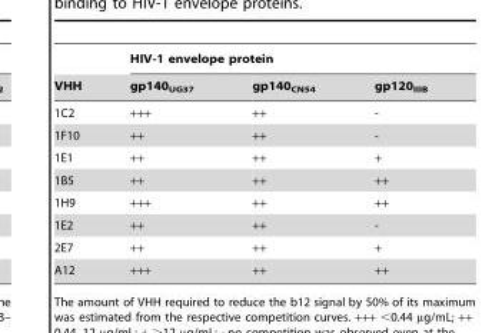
<table><thead><tr><td rowspan="2">VHH</td><td colspan="3">HIV-1 envelope protein</td></tr><tr><td>gp140<sub>UG37</sub></td><td>gp140<sub>CN54</sub></td><td>gp120<sub>IIIB</sub></td></tr></thead><tbody><tr><td>1C2</td><td>+++</td><td>++</td><td>-</td></tr><tr><td>1F10</td><td>++</td><td>++</td><td>-</td></tr><tr><td>1E1</td><td>++</td><td>++</td><td>+</td></tr><tr><td>1B5</td><td>++</td><td>++</td><td>++</td></tr><tr><td>1H9</td><td>+++</td><td>++</td><td>++</td></tr><tr><td>1E2</td><td>++</td><td>++</td><td>-</td></tr><tr><td>2E7</td><td>++</td><td>++</td><td>+</td></tr><tr><td>A12</td><td>+++</td><td>++</td><td>++</td></tr></tbody></table>